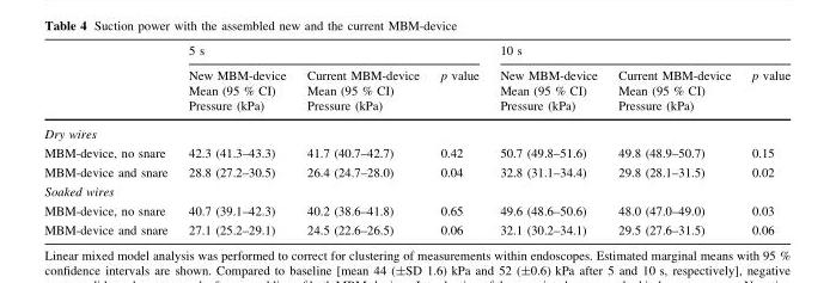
<table><thead><tr><td rowspan="3"></td><td colspan="3">5 s</td><td colspan="3">10 s</td></tr><tr><td rowspan="2">New MBM-device Mean (95 % CI) Pressure (kPa)</td><td rowspan="2">Current MBM-device Mean (95 % CI) Pressure (kPa)</td><td rowspan="2">p value</td><td rowspan="2">New MBM-device Mean (95 % CI) Pressure (kPa)</td><td rowspan="2">Current MBM-device Mean (95 % CI) Pressure (kPa)</td><td rowspan="2">p value</td></tr><tr></tr></thead><tbody><tr><td colspan="7">Dry wires</td></tr><tr><td>MBM-device, no snare</td><td>42.3 (41.3–43.3)</td><td>41.7 (40.7–42.7)</td><td>0.42</td><td>50.7 (49.8–51.6)</td><td>49.8 (48.9–50.7)</td><td>0.15</td></tr><tr><td>MBM-device and snare</td><td>28.8 (27.2–30.5)</td><td>26.4 (24.7–28.0)</td><td>0.04</td><td>32.8 (31.1–34.4)</td><td>29.8 (28.1–31.5)</td><td>0.02</td></tr><tr><td colspan="7">Soaked wires</td></tr><tr><td>MBM-device, no snare</td><td>40.7 (39.1–42.3)</td><td>40.2 (38.6–41.8)</td><td>0.65</td><td>49.6 (48.6–50.6)</td><td>48.0 (47.0–49.0)</td><td>0.03</td></tr><tr><td>MBM-device and snare</td><td>27.1 (25.2–29.1)</td><td>24.5 (22.6–26.5)</td><td>0.06</td><td>32.1 (30.2–34.1)</td><td>29.5 (27.6–31.5)</td><td>0.06</td></tr></tbody></table>